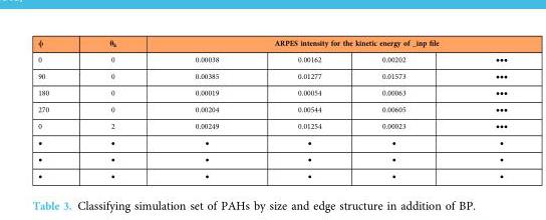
<table><thead><tr><td rowspan="2">ɸ 0</td><td rowspan="2">θ<sub>k</sub> 0</td><td colspan="4">ARPES intensity for the kinetic energy of _inp file</td></tr><tr><td>0.00038</td><td>0.00162</td><td>0.00202</td><td>•••</td></tr></thead><tbody><tr><td>90</td><td>0</td><td>0.00385</td><td>0.01277</td><td>0.01573</td><td>•••</td></tr><tr><td>180</td><td>0</td><td>0.00019</td><td>0.00054</td><td>0.00063</td><td>•••</td></tr><tr><td>270</td><td>0</td><td>0.00204</td><td>0.00544</td><td>0.00605</td><td>•••</td></tr><tr><td>0</td><td>2</td><td>0.00249</td><td>0.01254</td><td>0.00023</td><td>•••</td></tr><tr><td>•</td><td>•</td><td>•</td><td>•</td><td>•</td><td>•</td></tr><tr><td>•</td><td>•</td><td>•</td><td>•</td><td>•</td><td>•</td></tr><tr><td>•</td><td>•</td><td>•</td><td>•</td><td>•</td><td>•</td></tr></tbody></table>